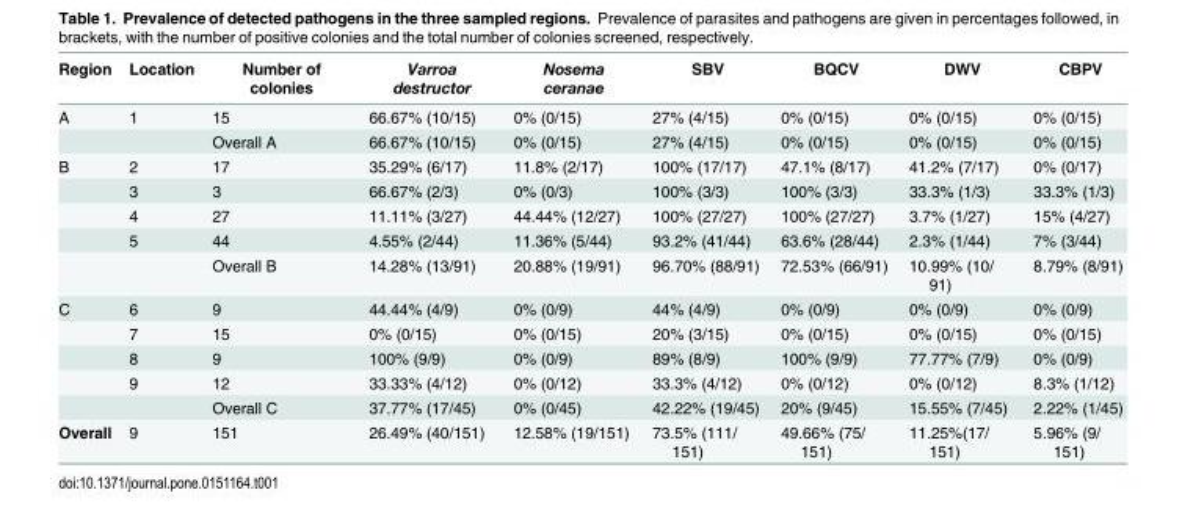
<table><thead><tr><td>Region</td><td>Location</td><td>Number of colonies</td><td>Varroa destructor</td><td>Nosema ceranae</td><td>SBV</td><td>BQCV</td><td>DWV</td><td>CBPV</td></tr></thead><tbody><tr><td rowspan="2">A</td><td>1</td><td>15</td><td>66.67% (10/15)</td><td>0% (0/15)</td><td>27% (4/15)</td><td>0% (0/15)</td><td>0% (0/15)</td><td>0% (0/15)</td></tr><tr><td></td><td>Overall A</td><td>66.67% (10/15)</td><td>0% (0/15)</td><td>27% (4/15)</td><td>0% (0/15)</td><td>0% (0/15)</td><td>0% (0/15)</td></tr><tr><td rowspan="5">B</td><td>2</td><td>17</td><td>35.29% (6/17)</td><td>11.8% (2/17)</td><td>100% (17/17)</td><td>47.1% (8/17)</td><td>41.2% (7/17)</td><td>0% (0/17)</td></tr><tr><td>3</td><td>3</td><td>66.67% (2/3)</td><td>0% (0/3)</td><td>100% (3/3)</td><td>100% (3/3)</td><td>33.3% (1/3)</td><td>33.3% (1/3)</td></tr><tr><td>4</td><td>27</td><td>11.11% (3/27)</td><td>44.44% (12/27)</td><td>100% (27/27)</td><td>100% (27/27)</td><td>3.7% (1/27)</td><td>15% (4/27)</td></tr><tr><td>5</td><td>44</td><td>4.55% (2/44)</td><td>11.36% (5/44)</td><td>93.2% (41/44)</td><td>63.6% (28/44)</td><td>2.3% (1/44)</td><td>7% (3/44)</td></tr><tr><td></td><td>Overall B</td><td>14.28% (13/91)</td><td>20.88% (19/91)</td><td>96.70% (88/91)</td><td>72.53% (66/91)</td><td>10.99% (10/ 91)</td><td>8.79% (8/91)</td></tr><tr><td rowspan="5">C</td><td>6</td><td>9</td><td>44.44% (4/9)</td><td>0% (0/9)</td><td>44% (4/9)</td><td>0% (0/9)</td><td>0% (0/9)</td><td>0% (0/9)</td></tr><tr><td>7</td><td>15</td><td>0% (0/15)</td><td>0% (0/15)</td><td>20% (3/15)</td><td>0% (0/15)</td><td>0% (0/15)</td><td>0% (0/15)</td></tr><tr><td>8</td><td>9</td><td>100% (9/9)</td><td>0% (0/9)</td><td>89% (8/9)</td><td>100% (9/9)</td><td>77.77% (7/9)</td><td>0% (0/9)</td></tr><tr><td>9</td><td>12</td><td>33.33% (4/12)</td><td>0% (0/12)</td><td>33.3% (4/12)</td><td>0% (0/12)</td><td>0% (0/12)</td><td>8.3% (1/12)</td></tr><tr><td></td><td>Overall C</td><td>37.77% (17/45)</td><td>0% (0/45)</td><td>42.22% (19/45)</td><td>20% (9/45)</td><td>15.55% (7/45)</td><td>2.22% (1/45)</td></tr><tr><td>Overall</td><td>9</td><td>151</td><td>26.49% (40/151)</td><td>12.58% (19/151)</td><td>73.5% (111/ 151)</td><td>49.66% (75/ 151)</td><td>11.25%(17/ 151)</td><td>5.96% (9/ 151)</td></tr></tbody></table>